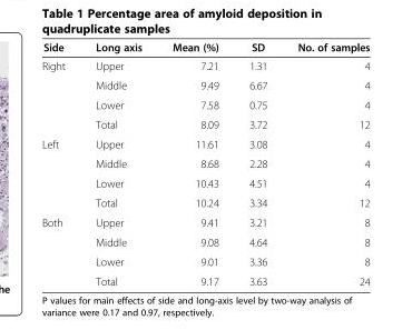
<table><thead><tr><td>Side</td><td>Long axis</td><td>Mean (%)</td><td>SD</td><td>No. of samples</td></tr></thead><tbody><tr><td rowspan="4">Right</td><td>Upper</td><td>7.21</td><td>1.31</td><td>4</td></tr><tr><td>Middle</td><td>9.49</td><td>6.67</td><td>4</td></tr><tr><td>Lower</td><td>7.58</td><td>0.75</td><td>4</td></tr><tr><td>Total</td><td>8.09</td><td>3.72</td><td>12</td></tr><tr><td rowspan="4">Left</td><td>Upper</td><td>11.61</td><td>3.08</td><td>4</td></tr><tr><td>Middle</td><td>8.68</td><td>2.28</td><td>4</td></tr><tr><td>Lower</td><td>10.43</td><td>4.51</td><td>4</td></tr><tr><td>Total</td><td>10.24</td><td>3.34</td><td>12</td></tr><tr><td rowspan="4">Both</td><td>Upper</td><td>9.41</td><td>3.21</td><td>8</td></tr><tr><td>Middle</td><td>9.08</td><td>4.64</td><td>8</td></tr><tr><td>Lower</td><td>9.01</td><td>3.36</td><td>8</td></tr><tr><td>Total</td><td>9.17</td><td>3.63</td><td>24</td></tr></tbody></table>